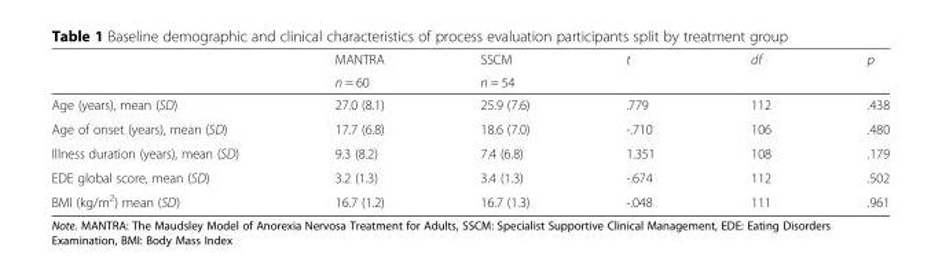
<table><thead><tr><td rowspan="2"></td><td rowspan="2">MANTRA n = 60</td><td rowspan="2">SSCM n = 54</td><td rowspan="2">t</td><td rowspan="2">df</td><td rowspan="2">p</td></tr><tr></tr></thead><tbody><tr><td>Age (years), mean (SD)</td><td>27.0 (8.1)</td><td>25.9 (7.6)</td><td>.779</td><td>112</td><td>.438</td></tr><tr><td>Age of onset (years), mean (SD)</td><td>17.7 (6.8)</td><td>18.6 (7.0)</td><td>-.710</td><td>106</td><td>.480</td></tr><tr><td>Illness duration (years), mean (SD)</td><td>9.3 (8.2)</td><td>7.4 (6.8)</td><td>1.351</td><td>108</td><td>.179</td></tr><tr><td>EDE global score, mean (SD)</td><td>3.2 (1.3)</td><td>3.4 (1.3)</td><td>-.674</td><td>112</td><td>.502</td></tr><tr><td>BMI (kg/m<sup>2</sup>) mean (SD)</td><td>16.7 (1.2)</td><td>16.7 (1.3)</td><td>-.048</td><td>111</td><td>.961</td></tr></tbody></table>